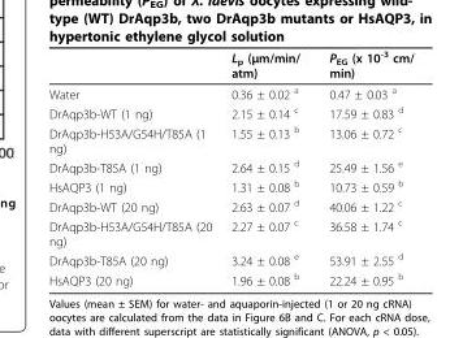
<table><thead><tr><td></td><td>L<sub>p</sub> (μm/min/ atm)</td><td>P<sub>EG</sub> (x 10<sup>-3</sup> cm/ min)</td></tr></thead><tbody><tr><td>Water</td><td>0.36 ± 0.02 <sup>a</sup></td><td>0.47 ± 0.03 <sup>a</sup></td></tr><tr><td>DrAqp3b-WT (1 ng)</td><td>2.15 ± 0.14 <sup>c</sup></td><td>17.59 ± 0.83 <sup>d</sup></td></tr><tr><td>DrAqp3b-H53A/G54H/T85A (1 ng)</td><td>1.55 ± 0.13 <sup>b</sup></td><td>13.06 ± 0.72 <sup>c</sup></td></tr><tr><td>DrAqp3b-T85A (1 ng)</td><td>2.64 ± 0.15 <sup>d</sup></td><td>25.49 ± 1.56 <sup>e</sup></td></tr><tr><td>HsAQP3 (1 ng)</td><td>1.31 ± 0.08 <sup>b</sup></td><td>10.73 ± 0.59 <sup>b</sup></td></tr><tr><td>DrAqp3b-WT (20 ng)</td><td>2.63 ± 0.07 <sup>d</sup></td><td>40.06 ± 1.22 <sup>c</sup></td></tr><tr><td>DrAqp3b-H53A/G54H/T85A (20 ng)</td><td>2.27 ± 0.07 <sup>c</sup></td><td>36.58 ± 1.74 <sup>c</sup></td></tr><tr><td>DrAqp3b-T85A (20 ng)</td><td>3.24 ± 0.08 <sup>e</sup></td><td>53.91 ± 2.55 <sup>d</sup></td></tr><tr><td>HsAQP3 (20 ng)</td><td>1.96 ± 0.08 <sup>b</sup></td><td>22.24 ± 0.95 <sup>b</sup></td></tr></tbody></table>